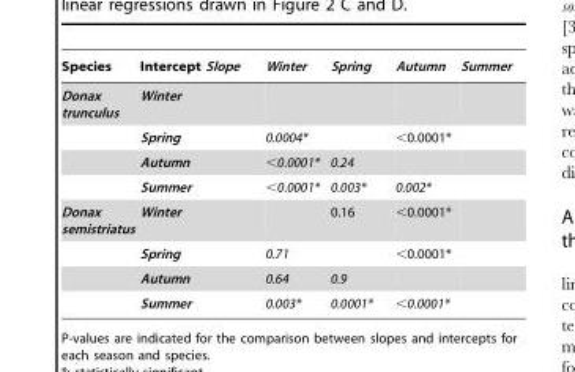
<table><thead><tr><td>Species</td><td>Intercept Slope</td><td>Winter</td><td>Spring</td><td>Autumn</td><td>Summer</td></tr></thead><tbody><tr><td rowspan="4">Donax trunculus</td><td>Winter</td><td></td><td></td><td></td><td></td></tr><tr><td>Spring</td><td>0.0004*</td><td></td><td>&lt;0.0001*</td><td></td></tr><tr><td>Autumn</td><td>&lt;0.0001*</td><td>0.24</td><td></td><td></td></tr><tr><td>Summer</td><td>&lt;0.0001*</td><td>0.003*</td><td>0.002*</td><td></td></tr><tr><td rowspan="4">Donax semistriatus</td><td>Winter</td><td></td><td>0.16</td><td>&lt;0.0001*</td><td></td></tr><tr><td>Spring</td><td>0.71</td><td></td><td>&lt;0.0001*</td><td></td></tr><tr><td>Autumn</td><td>0.64</td><td>0.9</td><td></td><td></td></tr><tr><td>Summer</td><td>0.003*</td><td>0.0001*</td><td>&lt;0.0001*</td><td></td></tr></tbody></table>